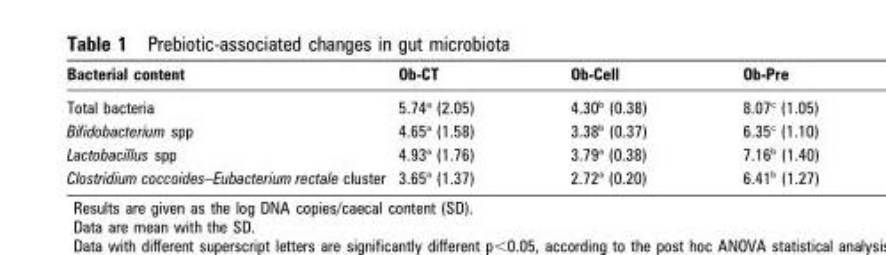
<table><thead><tr><td>Bacterial content</td><td>Ob-CT</td><td>Ob-Cell</td><td>Ob-Pre</td></tr></thead><tbody><tr><td>Total bacteria</td><td>5.74<sup>a</sup> (2.05)</td><td>4.30<sup>b</sup> (0.38)</td><td>8.07<sup>c</sup> (1.05)</td></tr><tr><td>Bifidobacterium spp</td><td>4.65<sup>a</sup> (1.58)</td><td>3.38<sup>b</sup> (0.37)</td><td>6.35<sup>c</sup> (1.10)</td></tr><tr><td>Lactobacillus spp</td><td>4.93<sup>a</sup> (1.76)</td><td>3.79<sup>a</sup> (0.38)</td><td>7.16<sup>b</sup> (1.40)</td></tr><tr><td>Clostridium coccoides–Eubacterium rectale cluster</td><td>3.65<sup>a</sup> (1.37)</td><td>2.72<sup>a</sup> (0.20)</td><td>6.41<sup>b</sup> (1.27)</td></tr></tbody></table>